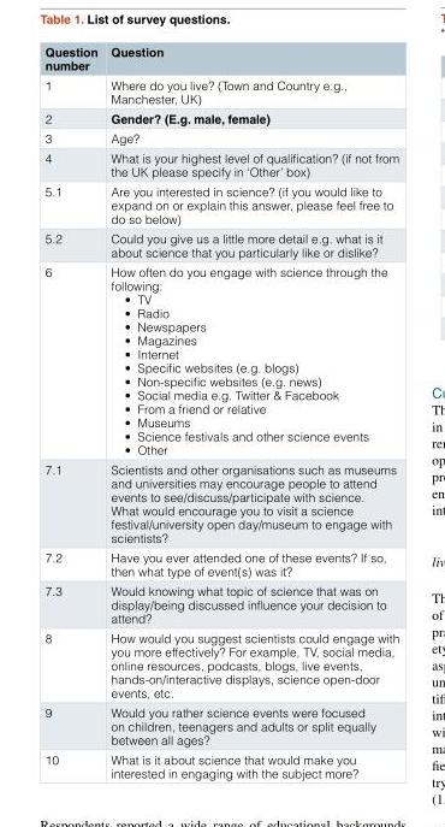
<table><thead><tr><td>Question number</td><td>Question</td></tr></thead><tbody><tr><td>1</td><td>Where do you live? (Town and Country e.g., Manchester, UK)</td></tr><tr><td>2</td><td>Gender? (E.g. male, female)</td></tr><tr><td>3</td><td>Age?</td></tr><tr><td>4</td><td>What is your highest level of qualification? (if not from the UK please specify in ‘Other’ box)</td></tr><tr><td>5.1</td><td>Are you interested in science? (if you would like to expand on or explain this answer, please feel free to do so below)</td></tr><tr><td>5.2</td><td>Could you give us a little more detail e.g. what is it about science that you particularly like or dislike?</td></tr><tr><td>6</td><td>How often do you engage with science through the following: • TV • Radio • Newspapers • Magazines • Internet • Specific websites (e.g. blogs) • Non-specific websites (e.g. news) • Social media e.g. Twitter &amp; Facebook • From a friend or relative • Museums • Science festivals and other science events • Other</td></tr><tr><td>7.1</td><td>Scientists and other organisations such as museums and universities may encourage people to attend events to see/discuss/participate with science. What would encourage you to visit a science festival/university open day/museum to engage with scientists?</td></tr><tr><td>7.2</td><td>Have you ever attended one of these events? If so, then what type of event(s) was it?</td></tr><tr><td>7.3</td><td>Would knowing what topic of science that was on display/being discussed influence your decision to attend?</td></tr><tr><td>8</td><td>How would you suggest scientists could engage with you more effectively? For example, TV, social media, online resources, podcasts, blogs, live events, hands-on/interactive displays, science open-door events, etc.</td></tr><tr><td>9</td><td>Would you rather science events were focused on children, teenagers and adults or split equally between all ages?</td></tr><tr><td>10</td><td>What is it about science that would make you interested in engaging with the subject more?</td></tr></tbody></table>